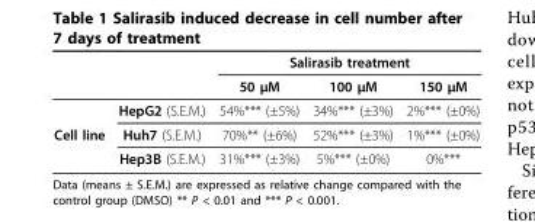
<table><thead><tr><td rowspan="2"></td><td rowspan="2"></td><td colspan="3">Salirasib treatment</td></tr><tr><td>50 μM</td><td>100 μM</td><td>150 μM</td></tr></thead><tbody><tr><td></td><td>HepG2 (S.E.M.)</td><td>54%*** (±5%)</td><td>34%*** (±3%)</td><td>2%*** (±0%)</td></tr><tr><td rowspan="2">Cell line</td><td>Huh7 (S.E.M.)</td><td>70%** (±6%)</td><td>52%*** (±3%)</td><td>1%*** (±0%)</td></tr><tr><td>Hep3B (S.E.M.)</td><td>31%*** (±3%)</td><td>5%*** (±0%)</td><td>0%***</td></tr></tbody></table>